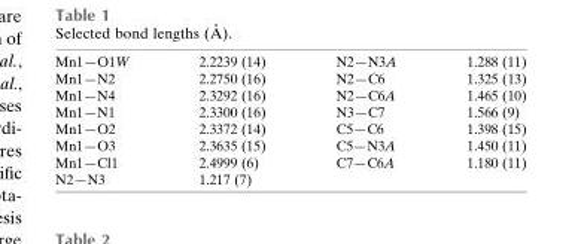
<table><tbody><tr><td>Mn1—O1W</td><td>2.2239 (14)</td><td>N2—N3A</td><td>1.288 (11)</td></tr><tr><td>Mn1—N2</td><td>2.2750 (16)</td><td>N2—C6</td><td>1.325 (13)</td></tr><tr><td>Mn1—N4</td><td>2.3292 (16)</td><td>N2—C6A</td><td>1.465 (10)</td></tr><tr><td>Mn1—N1</td><td>2.3300 (16)</td><td>N3—C7</td><td>1.566 (9)</td></tr><tr><td>Mn1—O2</td><td>2.3372 (14)</td><td>C5—C6</td><td>1.398 (15)</td></tr><tr><td>Mn1—O3</td><td>2.3635 (15)</td><td>C5—N3A</td><td>1.450 (11)</td></tr><tr><td>Mn1—Cl1</td><td>2.4999 (6)</td><td>C7—C6A</td><td>1.180 (11)</td></tr><tr><td>N2—N3</td><td>1.217 (7)</td><td></td><td></td></tr></tbody></table>